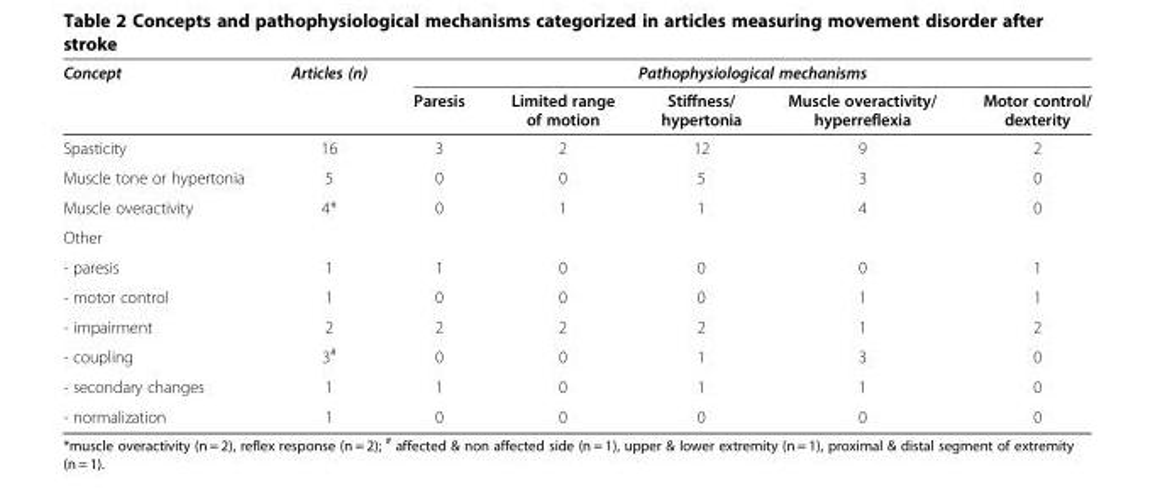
<table><thead><tr><td rowspan="2">Concept</td><td rowspan="2">Articles (n)</td><td colspan="5">Pathophysiological mechanisms</td></tr><tr><td>Paresis</td><td>Limited range of motion</td><td>Stiffness/ hypertonia</td><td>Muscle overactivity/ hyperreflexia</td><td>Motor control/ dexterity</td></tr></thead><tbody><tr><td>Spasticity</td><td>16</td><td>3</td><td>2</td><td>12</td><td>9</td><td>2</td></tr><tr><td>Muscle tone or hypertonia</td><td>5</td><td>0</td><td>0</td><td>5</td><td>3</td><td>0</td></tr><tr><td>Muscle overactivity</td><td>4*</td><td>0</td><td>1</td><td>1</td><td>4</td><td>0</td></tr><tr><td colspan="7">Other</td></tr><tr><td>- paresis</td><td>1</td><td>1</td><td>0</td><td>0</td><td>0</td><td>1</td></tr><tr><td>- motor control</td><td>1</td><td>0</td><td>0</td><td>0</td><td>1</td><td>1</td></tr><tr><td>- impairment</td><td>2</td><td>2</td><td>2</td><td>2</td><td>1</td><td>2</td></tr><tr><td>- coupling</td><td>3<sup>#</sup></td><td>0</td><td>0</td><td>1</td><td>3</td><td>0</td></tr><tr><td>- secondary changes</td><td>1</td><td>1</td><td>0</td><td>1</td><td>1</td><td>0</td></tr><tr><td>- normalization</td><td>1</td><td>0</td><td>0</td><td>0</td><td>0</td><td>0</td></tr></tbody></table>